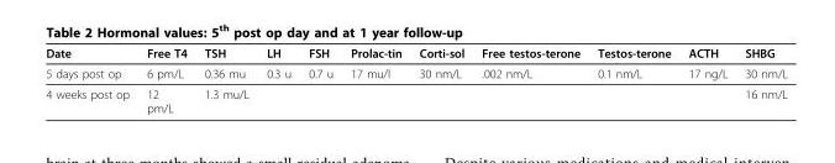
<table><thead><tr><td>Date</td><td>Free T4</td><td>TSH</td><td>LH</td><td>FSH</td><td>Prolac-tin</td><td>Corti-sol</td><td>Free testos-terone</td><td>Testos-terone</td><td>ACTH</td><td>SHBG</td></tr></thead><tbody><tr><td>5 days post op</td><td>6 pm/L</td><td>0.36 mu</td><td>0.3 u</td><td>0.7 u</td><td>17 mu/l</td><td>30 nm/L</td><td>.002 nm/L</td><td>0.1 nm/L</td><td>17 ng/L</td><td>30 nm/L</td></tr><tr><td>4 weeks post op</td><td>12 pm/L</td><td>1.3 mu/L</td><td></td><td></td><td></td><td></td><td></td><td></td><td></td><td>16 nm/L</td></tr></tbody></table>